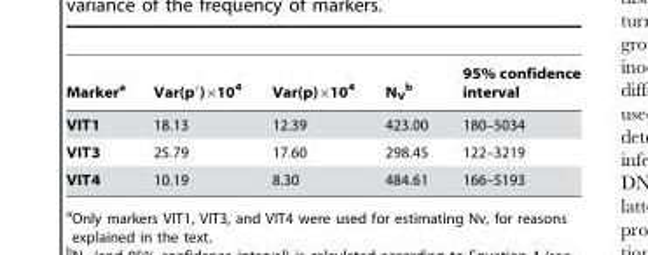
<table><thead><tr><td>Marker<sup>a</sup></td><td>Var(p′)×10<sup>4</sup></td><td>Var(p)×10<sup>4</sup></td><td>N<sub>V</sub> b</td><td>95% confidence interval</td></tr></thead><tbody><tr><td>VIT1</td><td>18.13</td><td>12.39</td><td>423.00</td><td>180–5034</td></tr><tr><td>VIT3</td><td>25.79</td><td>17.60</td><td>298.45</td><td>122–3219</td></tr><tr><td>VIT4</td><td>10.19</td><td>8.30</td><td>484.61</td><td>166–5193</td></tr></tbody></table>